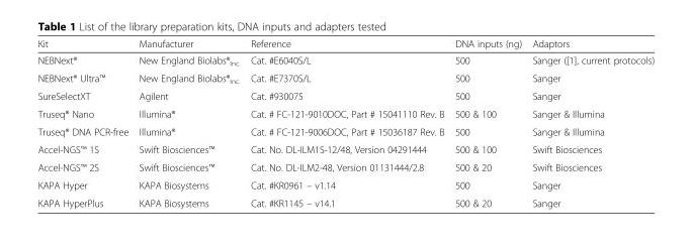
<table><thead><tr><td>Kit</td><td>Manufacturer</td><td>Reference</td><td>DNA inputs (ng)</td><td>Adaptors</td></tr></thead><tbody><tr><td>NEBNext®</td><td>New England Biolabs®<sub>Inc.</sub></td><td>Cat. #E6040S/L</td><td>500</td><td>Sanger ([1], current protocols)</td></tr><tr><td>NEBNext® Ultra™</td><td>New England Biolabs®<sub>Inc.</sub></td><td>Cat. #E7370S/L</td><td>500</td><td>Sanger</td></tr><tr><td>SureSelectXT</td><td>Agilent</td><td>Cat. #930075</td><td>500</td><td>Sanger</td></tr><tr><td>Truseq® Nano</td><td>Illumina®</td><td>Cat. # FC-121-9010DOC, Part # 15041110 Rev. B</td><td>500 &amp; 100</td><td>Sanger &amp; Illumina</td></tr><tr><td>Truseq® DNA PCR-free</td><td>Illumina®</td><td>Cat. # FC-121-9006DOC, Part # 15036187 Rev. B</td><td>500</td><td>Sanger &amp; Illumina</td></tr><tr><td>Accel-NGS™ 1S</td><td>Swift Biosciences™</td><td>Cat. No. DL-ILM1S-12/48, Version 04291444</td><td>500 &amp; 100</td><td>Swift Biosciences</td></tr><tr><td>Accel-NGS™ 2S</td><td>Swift Biosciences™</td><td>Cat. No. DL-ILM2-48, Version 01131444/2.8</td><td>500 &amp; 20</td><td>Swift Biosciences</td></tr><tr><td>KAPA Hyper</td><td>KAPA Biosystems</td><td>Cat. #KR0961 – v1.14</td><td>500</td><td>Sanger</td></tr><tr><td>KAPA HyperPlus</td><td>KAPA Biosystems</td><td>Cat. #KR1145 – v14.1</td><td>500 &amp; 20</td><td>Sanger</td></tr></tbody></table>